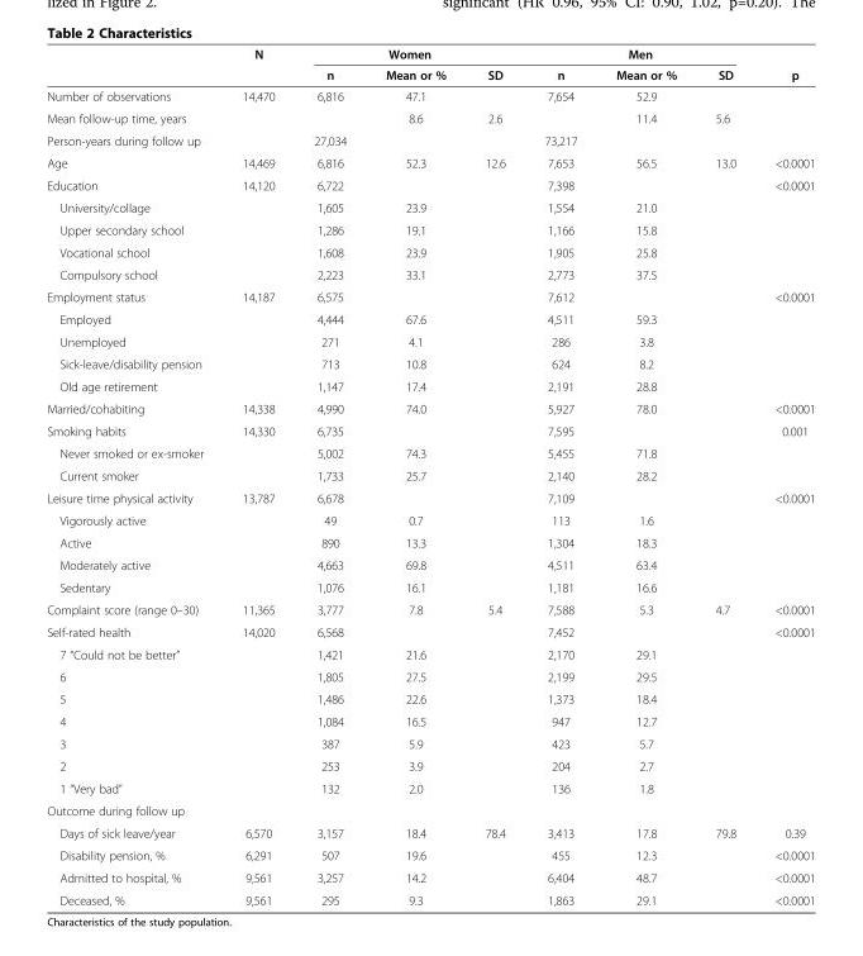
<table><thead><tr><td rowspan="2"></td><td rowspan="2">N</td><td colspan="3">Women</td><td colspan="3">Men</td><td rowspan="2">p</td></tr><tr><td>n</td><td>Mean or %</td><td>SD</td><td>n</td><td>Mean or %</td><td>SD</td></tr></thead><tbody><tr><td>Number of observations</td><td>14,470</td><td>6,816</td><td>47.1</td><td></td><td>7,654</td><td>52.9</td><td></td><td></td></tr><tr><td>Mean follow-up time, years</td><td></td><td></td><td>8.6</td><td>2.6</td><td></td><td>11.4</td><td>5.6</td><td></td></tr><tr><td>Person-years during follow up</td><td></td><td>27,034</td><td></td><td></td><td>73,217</td><td></td><td></td><td></td></tr><tr><td>Age</td><td>14,469</td><td>6,816</td><td>52.3</td><td>12.6</td><td>7,653</td><td>56.5</td><td>13.0</td><td>&lt;0.0001</td></tr><tr><td>Education</td><td>14,120</td><td>6,722</td><td></td><td></td><td>7,398</td><td></td><td></td><td>&lt;0.0001</td></tr><tr><td>University/collage</td><td></td><td>1,605</td><td>23.9</td><td></td><td>1,554</td><td>21.0</td><td></td><td></td></tr><tr><td>Upper secondary school</td><td></td><td>1,286</td><td>19.1</td><td></td><td>1,166</td><td>15.8</td><td></td><td></td></tr><tr><td>Vocational school</td><td></td><td>1,608</td><td>23.9</td><td></td><td>1,905</td><td>25.8</td><td></td><td></td></tr><tr><td>Compulsory school</td><td></td><td>2,223</td><td>33.1</td><td></td><td>2,773</td><td>37.5</td><td></td><td></td></tr><tr><td>Employment status</td><td>14,187</td><td>6,575</td><td></td><td></td><td>7,612</td><td></td><td></td><td>&lt;0.0001</td></tr><tr><td>Employed</td><td></td><td>4,444</td><td>67.6</td><td></td><td>4,511</td><td>59.3</td><td></td><td></td></tr><tr><td>Unemployed</td><td></td><td>271</td><td>4.1</td><td></td><td>286</td><td>3.8</td><td></td><td></td></tr><tr><td>Sick-leave/disability pension</td><td></td><td>713</td><td>10.8</td><td></td><td>624</td><td>8.2</td><td></td><td></td></tr><tr><td>Old age retirement</td><td></td><td>1,147</td><td>17.4</td><td></td><td>2,191</td><td>28.8</td><td></td><td></td></tr><tr><td>Married/cohabiting</td><td>14,338</td><td>4,990</td><td>74.0</td><td></td><td>5,927</td><td>78.0</td><td></td><td>&lt;0.0001</td></tr><tr><td>Smoking habits</td><td>14,330</td><td>6,735</td><td></td><td></td><td>7,595</td><td></td><td></td><td>0.001</td></tr><tr><td>Never smoked or ex-smoker</td><td></td><td>5,002</td><td>74.3</td><td></td><td>5,455</td><td>71.8</td><td></td><td></td></tr><tr><td>Current smoker</td><td></td><td>1,733</td><td>25.7</td><td></td><td>2,140</td><td>28.2</td><td></td><td></td></tr><tr><td>Leisure time physical activity</td><td>13,787</td><td>6,678</td><td></td><td></td><td>7,109</td><td></td><td></td><td>&lt;0.0001</td></tr><tr><td>Vigorously active</td><td></td><td>49</td><td>0.7</td><td></td><td>113</td><td>1.6</td><td></td><td></td></tr><tr><td>Active</td><td></td><td>890</td><td>13.3</td><td></td><td>1,304</td><td>18.3</td><td></td><td></td></tr><tr><td>Moderately active</td><td></td><td>4,663</td><td>69.8</td><td></td><td>4,511</td><td>63.4</td><td></td><td></td></tr><tr><td>Sedentary</td><td></td><td>1,076</td><td>16.1</td><td></td><td>1,181</td><td>16.6</td><td></td><td></td></tr><tr><td>Complaint score (range 0–30)</td><td>11,365</td><td>3,777</td><td>7.8</td><td>5.4</td><td>7,588</td><td>5.3</td><td>4.7</td><td>&lt;0.0001</td></tr><tr><td>Self-rated health</td><td>14,020</td><td>6,568</td><td></td><td></td><td>7,452</td><td></td><td></td><td>&lt;0.0001</td></tr><tr><td>7 “Could not be better”</td><td></td><td>1,421</td><td>21.6</td><td></td><td>2,170</td><td>29.1</td><td></td><td></td></tr><tr><td>6</td><td></td><td>1,805</td><td>27.5</td><td></td><td>2,199</td><td>29.5</td><td></td><td></td></tr><tr><td>5</td><td></td><td>1,486</td><td>22.6</td><td></td><td>1,373</td><td>18.4</td><td></td><td></td></tr><tr><td>4</td><td></td><td>1,084</td><td>16.5</td><td></td><td>947</td><td>12.7</td><td></td><td></td></tr><tr><td>3</td><td></td><td>387</td><td>5.9</td><td></td><td>423</td><td>5.7</td><td></td><td></td></tr><tr><td>2</td><td></td><td>253</td><td>3.9</td><td></td><td>204</td><td>2.7</td><td></td><td></td></tr><tr><td>1 “Very bad”</td><td></td><td>132</td><td>2.0</td><td></td><td>136</td><td>1.8</td><td></td><td></td></tr><tr><td colspan="9">Outcome during follow up</td></tr><tr><td>Days of sick leave/year</td><td>6,570</td><td>3,157</td><td>18.4</td><td>78.4</td><td>3,413</td><td>17.8</td><td>79.8</td><td>0.39</td></tr><tr><td>Disability pension, %</td><td>6,291</td><td>507</td><td>19.6</td><td></td><td>455</td><td>12.3</td><td></td><td>&lt;0.0001</td></tr><tr><td>Admitted to hospital, %</td><td>9,561</td><td>3,257</td><td>14.2</td><td></td><td>6,404</td><td>48.7</td><td></td><td>&lt;0.0001</td></tr><tr><td>Deceased, %</td><td>9,561</td><td>295</td><td>9.3</td><td></td><td>1,863</td><td>29.1</td><td></td><td>&lt;0.0001</td></tr></tbody></table>